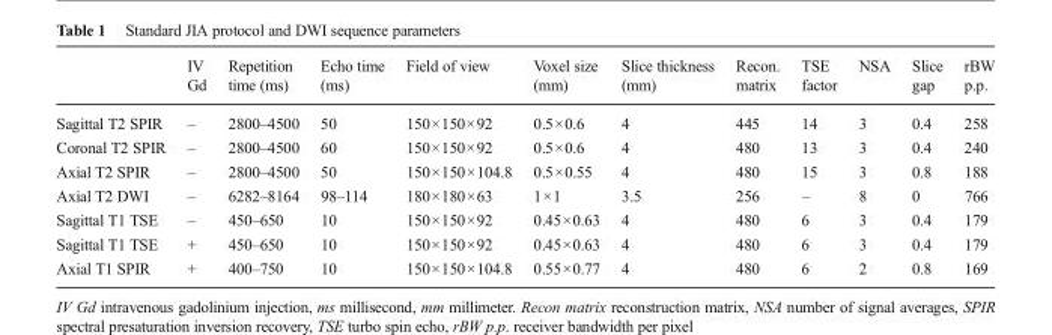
<table><thead><tr><td></td><td>IV Gd</td><td>Repetition time (ms)</td><td>Echo time (ms)</td><td>Field of view</td><td>Voxel size (mm)</td><td>Slice thickness (mm)</td><td>Recon. matrix</td><td>TSE factor</td><td>NSA</td><td>Slice gap</td><td>rBW p.p.</td></tr></thead><tbody><tr><td>Sagittal T2 SPIR</td><td>–</td><td>2800–4500</td><td>50</td><td>150×150×92</td><td>0.5×0.6</td><td>4</td><td>445</td><td>14</td><td>3</td><td>0.4</td><td>258</td></tr><tr><td>Coronal T2 SPIR</td><td>–</td><td>2800–4500</td><td>60</td><td>150×150×92</td><td>0.5×0.6</td><td>4</td><td>480</td><td>13</td><td>3</td><td>0.4</td><td>240</td></tr><tr><td>Axial T2 SPIR</td><td>–</td><td>2800–4500</td><td>50</td><td>150×150×104.8</td><td>0.5×0.55</td><td>4</td><td>480</td><td>15</td><td>3</td><td>0.8</td><td>188</td></tr><tr><td>Axial T2 DWI</td><td>–</td><td>6282–8164</td><td>98–114</td><td>180×180×63</td><td>1×1</td><td>3.5</td><td>256</td><td>–</td><td>8</td><td>0</td><td>766</td></tr><tr><td>Sagittal T1 TSE</td><td>–</td><td>450–650</td><td>10</td><td>150×150×92</td><td>0.45×0.63</td><td>4</td><td>480</td><td>6</td><td>3</td><td>0.4</td><td>179</td></tr><tr><td>Sagittal T1 TSE</td><td>+</td><td>450–650</td><td>10</td><td>150×150×92</td><td>0.45×0.63</td><td>4</td><td>480</td><td>6</td><td>3</td><td>0.4</td><td>179</td></tr><tr><td>Axial T1 SPIR</td><td>+</td><td>400–750</td><td>10</td><td>150×150×104.8</td><td>0.55×0.77</td><td>4</td><td>480</td><td>6</td><td>2</td><td>0.8</td><td>169</td></tr></tbody></table>